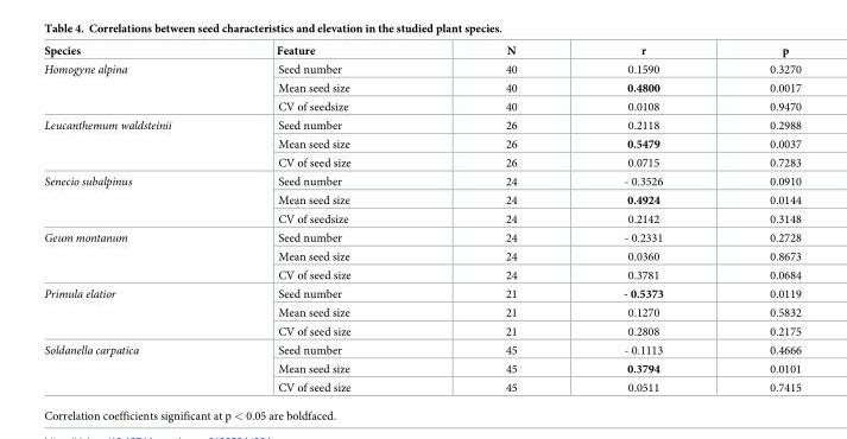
<table><thead><tr><td>Species</td><td>Feature</td><td>N</td><td>r</td><td>p</td></tr></thead><tbody><tr><td rowspan="3">Homogyne alpina</td><td>Seed number</td><td>40</td><td>0.1590</td><td>0.3270</td></tr><tr><td>Mean seed size</td><td>40</td><td>0.4800</td><td>0.0017</td></tr><tr><td>CV of seedsize</td><td>40</td><td>0.0108</td><td>0.9470</td></tr><tr><td rowspan="3">Leucanthemum waldsteinii</td><td>Seed number</td><td>26</td><td>0.2118</td><td>0.2988</td></tr><tr><td>Mean seed size</td><td>26</td><td>0.5479</td><td>0.0037</td></tr><tr><td>CV of seed size</td><td>26</td><td>0.0715</td><td>0.7283</td></tr><tr><td rowspan="3">Senecio subalpinus</td><td>Seed number</td><td>24</td><td>- 0.3526</td><td>0.0910</td></tr><tr><td>Mean seed size</td><td>24</td><td>0.4924</td><td>0.0144</td></tr><tr><td>CV of seedsize</td><td>24</td><td>0.2142</td><td>0.3148</td></tr><tr><td rowspan="3">Geum montanum</td><td>Seed number</td><td>24</td><td>- 0.2331</td><td>0.2728</td></tr><tr><td>Mean seed size</td><td>24</td><td>0.0360</td><td>0.8673</td></tr><tr><td>CV of seed size</td><td>24</td><td>0.3781</td><td>0.0684</td></tr><tr><td rowspan="3">Primula elatior</td><td>Seed number</td><td>21</td><td>- 0.5373</td><td>0.0119</td></tr><tr><td>Mean seed size</td><td>21</td><td>0.1270</td><td>0.5832</td></tr><tr><td>CV of seed size</td><td>21</td><td>0.2808</td><td>0.2175</td></tr><tr><td rowspan="3">Soldanella carpatica</td><td>Seed number</td><td>45</td><td>- 0.1113</td><td>0.4666</td></tr><tr><td>Mean seed size</td><td>45</td><td>0.3794</td><td>0.0101</td></tr><tr><td>CV of seed size</td><td>45</td><td>0.0511</td><td>0.7415</td></tr></tbody></table>